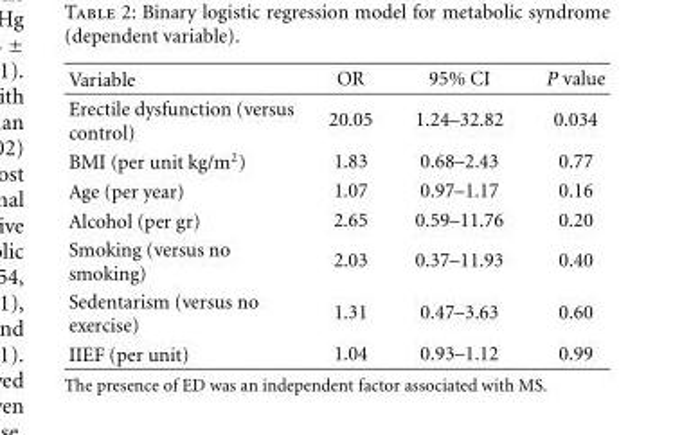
<table><thead><tr><td>Variable</td><td>OR</td><td>95% CI</td><td>P value</td></tr></thead><tbody><tr><td>Erectile dysfunction (versus control)</td><td>20.05</td><td>1.24–32.82</td><td>0.034</td></tr><tr><td>BMI (per unit kg/m<sup>2</sup>)</td><td>1.83</td><td>0.68–2.43</td><td>0.77</td></tr><tr><td>Age (per year)</td><td>1.07</td><td>0.97–1.17</td><td>0.16</td></tr><tr><td>Alcohol (per gr)</td><td>2.65</td><td>0.59–11.76</td><td>0.20</td></tr><tr><td>Smoking (versus no smoking)</td><td>2.03</td><td>0.37–11.93</td><td>0.40</td></tr><tr><td>Sedentarism (versus no exercise)</td><td>1.31</td><td>0.47–3.63</td><td>0.60</td></tr><tr><td>IIEF (per unit)</td><td>1.04</td><td>0.93–1.12</td><td>0.99</td></tr></tbody></table>